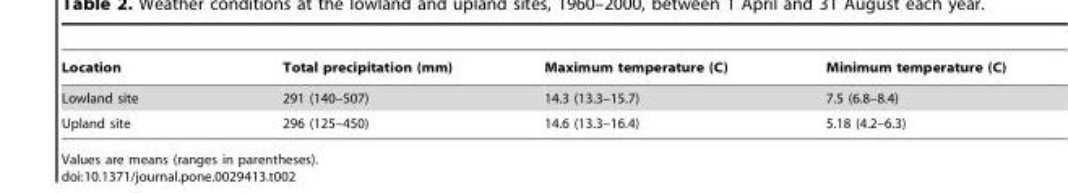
<table><thead><tr><td>Location</td><td>Total precipitation (mm)</td><td>Maximum temperature (C)</td><td>Minimum temperature (C)</td></tr></thead><tbody><tr><td>Lowland site</td><td>291 (140–507)</td><td>14.3 (13.3–15.7)</td><td>7.5 (6.8–8.4)</td></tr><tr><td>Upland site</td><td>296 (125–450)</td><td>14.6 (13.3–16.4)</td><td>5.18 (4.2–6.3)</td></tr></tbody></table>